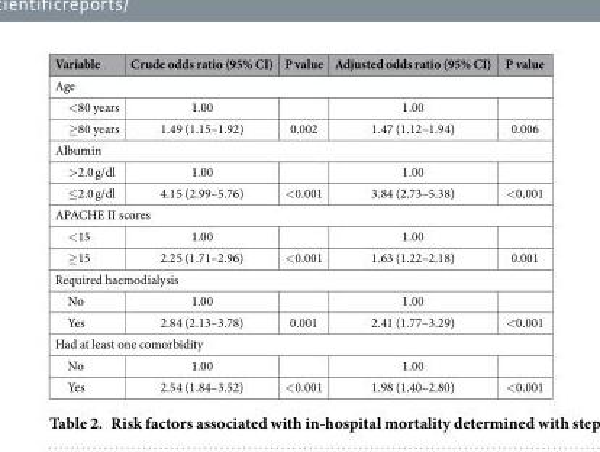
<table><thead><tr><td>Variable</td><td>Crude odds ratio (95% CI)</td><td>P value</td><td>Adjusted odds ratio (95% CI)</td><td>P value</td></tr></thead><tbody><tr><td colspan="5">Age</td></tr><tr><td>&lt; 80 years</td><td>1.00</td><td></td><td>1.00</td><td></td></tr><tr><td>≥ 80 years</td><td>1.49 (1.15–1.92)</td><td>0.002</td><td>1.47 (1.12–1.94)</td><td>0.006</td></tr><tr><td colspan="5">Albumin</td></tr><tr><td>&gt; 2.0 g/dl</td><td>1.00</td><td></td><td>1.00</td><td></td></tr><tr><td>≤ 2.0 g/dl</td><td>4.15 (2.99–5.76)</td><td>&lt; 0.001</td><td>3.84 (2.73–5.38)</td><td>&lt; 0.001</td></tr><tr><td colspan="5">APACHE II scores</td></tr><tr><td>&lt; 15</td><td>1.00</td><td></td><td>1.00</td><td></td></tr><tr><td>≥ 15</td><td>2.25 (1.71–2.96)</td><td>&lt; 0.001</td><td>1.63 (1.22–2.18)</td><td>0.001</td></tr><tr><td colspan="5">Required haemodialysis</td></tr><tr><td>No</td><td>1.00</td><td></td><td>1.00</td><td></td></tr><tr><td>Yes</td><td>2.84 (2.13–3.78)</td><td>0.001</td><td>2.41 (1.77–3.29)</td><td>&lt; 0.001</td></tr><tr><td colspan="5">Had at least one comorbidity</td></tr><tr><td>No</td><td>1.00</td><td></td><td>1.00</td><td></td></tr><tr><td>Yes</td><td>2.54 (1.84–3.52)</td><td>&lt; 0.001</td><td>1.98 (1.40–2.80)</td><td>&lt; 0.001</td></tr></tbody></table>